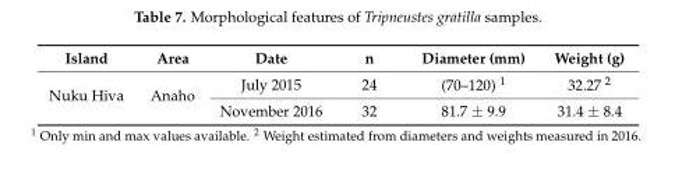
<table><thead><tr><td>Island</td><td>Area</td><td>Date</td><td>n</td><td>Diameter (mm)</td><td>Weight (g)</td></tr></thead><tbody><tr><td rowspan="2">Nuku Hiva</td><td rowspan="2">Anaho</td><td>July 2015</td><td>24</td><td>(70–120) <sup>1</sup></td><td>32.27 <sup>2</sup></td></tr><tr><td>November 2016</td><td>32</td><td>81.7 ± 9.9</td><td>31.4 ± 8.4</td></tr></tbody></table>